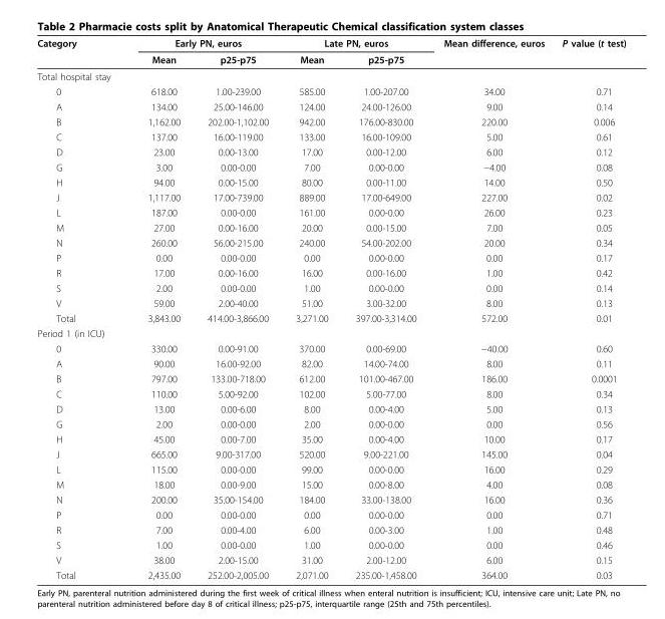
<table><thead><tr><td rowspan="2">Category</td><td colspan="2">Early PN, euros</td><td colspan="2">Late PN, euros</td><td rowspan="2">Mean difference, euros</td><td rowspan="2">P value (t test)</td></tr><tr><td>Mean</td><td>p25-p75</td><td>Mean</td><td>p25-p75</td></tr></thead><tbody><tr><td colspan="7">Total hospital stay</td></tr><tr><td>0</td><td>618.00</td><td>1.00-239.00</td><td>585.00</td><td>1.00-207.00</td><td>34.00</td><td>0.71</td></tr><tr><td>A</td><td>134.00</td><td>25.00-146.00</td><td>124.00</td><td>24.00-126.00</td><td>9.00</td><td>0.14</td></tr><tr><td>B</td><td>1,162.00</td><td>202.00-1,102.00</td><td>942.00</td><td>176.00-830.00</td><td>220.00</td><td>0.006</td></tr><tr><td>C</td><td>137.00</td><td>16.00-119.00</td><td>133.00</td><td>16.00-109.00</td><td>5.00</td><td>0.61</td></tr><tr><td>D</td><td>23.00</td><td>0.00-13.00</td><td>17.00</td><td>0.00-12.00</td><td>6.00</td><td>0.12</td></tr><tr><td>G</td><td>3.00</td><td>0.00-0.00</td><td>7.00</td><td>0.00-0.00</td><td>−4.00</td><td>0.08</td></tr><tr><td>H</td><td>94.00</td><td>0.00-15.00</td><td>80.00</td><td>0.00-11.00</td><td>14.00</td><td>0.50</td></tr><tr><td>J</td><td>1,117.00</td><td>17.00-739.00</td><td>889.00</td><td>17.00-649.00</td><td>227.00</td><td>0.02</td></tr><tr><td>L</td><td>187.00</td><td>0.00-0.00</td><td>161.00</td><td>0.00-0.00</td><td>26.00</td><td>0.23</td></tr><tr><td>M</td><td>27.00</td><td>0.00-16.00</td><td>20.00</td><td>0.00-15.00</td><td>7.00</td><td>0.05</td></tr><tr><td>N</td><td>260.00</td><td>56.00-215.00</td><td>240.00</td><td>54.00-202.00</td><td>20.00</td><td>0.34</td></tr><tr><td>P</td><td>0.00</td><td>0.00-0.00</td><td>0.00</td><td>0.00-0.00</td><td>0.00</td><td>0.17</td></tr><tr><td>R</td><td>17.00</td><td>0.00-16.00</td><td>16.00</td><td>0.00-16.00</td><td>1.00</td><td>0.42</td></tr><tr><td>S</td><td>2.00</td><td>0.00-0.00</td><td>1.00</td><td>0.00-0.00</td><td>0.00</td><td>0.14</td></tr><tr><td>V</td><td>59.00</td><td>2.00-40.00</td><td>51.00</td><td>3.00-32.00</td><td>8.00</td><td>0.13</td></tr><tr><td>Total</td><td>3,843.00</td><td>414.00-3,866.00</td><td>3,271.00</td><td>397.00-3,314.00</td><td>572.00</td><td>0.01</td></tr><tr><td colspan="7">Period 1 (in ICU)</td></tr><tr><td>0</td><td>330.00</td><td>0.00-91.00</td><td>370.00</td><td>0.00-69.00</td><td>−40.00</td><td>0.60</td></tr><tr><td>A</td><td>90.00</td><td>16.00-92.00</td><td>82.00</td><td>14.00-74.00</td><td>8.00</td><td>0.11</td></tr><tr><td>B</td><td>797.00</td><td>133.00-718.00</td><td>612.00</td><td>101.00-467.00</td><td>186.00</td><td>0.0001</td></tr><tr><td>C</td><td>110.00</td><td>5.00-92.00</td><td>102.00</td><td>5.00-77.00</td><td>8.00</td><td>0.34</td></tr><tr><td>D</td><td>13.00</td><td>0.00-6.00</td><td>8.00</td><td>0.00-4.00</td><td>5.00</td><td>0.13</td></tr><tr><td>G</td><td>2.00</td><td>0.00-0.00</td><td>2.00</td><td>0.00-0.00</td><td>0.00</td><td>0.56</td></tr><tr><td>H</td><td>45.00</td><td>0.00-7.00</td><td>35.00</td><td>0.00-4.00</td><td>10.00</td><td>0.17</td></tr><tr><td>J</td><td>665.00</td><td>9.00-317.00</td><td>520.00</td><td>9.00-221.00</td><td>145.00</td><td>0.04</td></tr><tr><td>L</td><td>115.00</td><td>0.00-0.00</td><td>99.00</td><td>0.00-0.00</td><td>16.00</td><td>0.29</td></tr><tr><td>M</td><td>18.00</td><td>0.00-9.00</td><td>15.00</td><td>0.00-8.00</td><td>4.00</td><td>0.08</td></tr><tr><td>N</td><td>200.00</td><td>35.00-154.00</td><td>184.00</td><td>33.00-138.00</td><td>16.00</td><td>0.36</td></tr><tr><td>P</td><td>0.00</td><td>0.00-0.00</td><td>0.00</td><td>0.00-0.00</td><td>0.00</td><td>0.71</td></tr><tr><td>R</td><td>7.00</td><td>0.00-4.00</td><td>6.00</td><td>0.00-3.00</td><td>1.00</td><td>0.48</td></tr><tr><td>S</td><td>1.00</td><td>0.00-0.00</td><td>1.00</td><td>0.00-0.00</td><td>0.00</td><td>0.46</td></tr><tr><td>V</td><td>38.00</td><td>2.00-15.00</td><td>31.00</td><td>2.00-12.00</td><td>6.00</td><td>0.15</td></tr><tr><td>Total</td><td>2,435.00</td><td>252.00-2,005.00</td><td>2,071.00</td><td>235.00-1,458.00</td><td>364.00</td><td>0.03</td></tr></tbody></table>